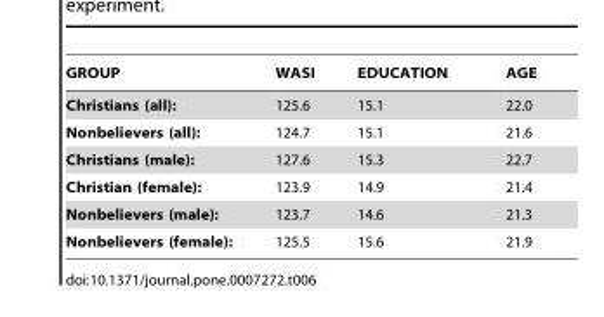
<table><thead><tr><td>GROUP</td><td>WASI</td><td>EDUCATION</td><td>AGE</td></tr></thead><tbody><tr><td>Christians (all):</td><td>125.6</td><td>15.1</td><td>22.0</td></tr><tr><td>Nonbelievers (all):</td><td>124.7</td><td>15.1</td><td>21.6</td></tr><tr><td>Christians (male):</td><td>127.6</td><td>15.3</td><td>22.7</td></tr><tr><td>Christian (female):</td><td>123.9</td><td>14.9</td><td>21.4</td></tr><tr><td>Nonbelievers (male):</td><td>123.7</td><td>14.6</td><td>21.3</td></tr><tr><td>Nonbelievers (female):</td><td>125.5</td><td>15.6</td><td>21.9</td></tr></tbody></table>